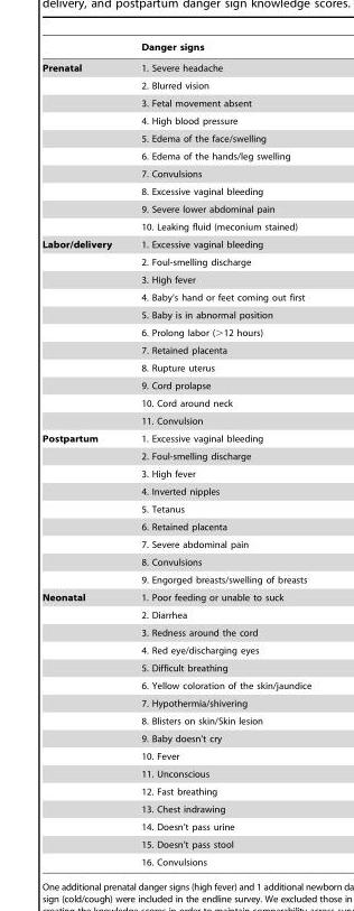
<table><thead><tr><td></td><td>Danger signs</td></tr></thead><tbody><tr><td rowspan="10">Prenatal</td><td>1. Severe headache</td></tr><tr><td>2. Blurred vision</td></tr><tr><td>3. Fetal movement absent</td></tr><tr><td>4. High blood pressure</td></tr><tr><td>5. Edema of the face/swelling</td></tr><tr><td>6. Edema of the hands/leg swelling</td></tr><tr><td>7. Convulsions</td></tr><tr><td>8. Excessive vaginal bleeding</td></tr><tr><td>9. Severe lower abdominal pain</td></tr><tr><td>10. Leaking fluid (meconium stained)</td></tr><tr><td rowspan="11">Labor/delivery</td><td>1. Excessive vaginal bleeding</td></tr><tr><td>2. Foul-smelling discharge</td></tr><tr><td>3. High fever</td></tr><tr><td>4. Baby’s hand or feet coming out first</td></tr><tr><td>5. Baby is in abnormal position</td></tr><tr><td>6. Prolong labor (&gt;12 hours)</td></tr><tr><td>7. Retained placenta</td></tr><tr><td>8. Rupture uterus</td></tr><tr><td>9. Cord prolapse</td></tr><tr><td>10. Cord around neck</td></tr><tr><td>11. Convulsion</td></tr><tr><td rowspan="9">Postpartum</td><td>1. Excessive vaginal bleeding</td></tr><tr><td>2. Foul-smelling discharge</td></tr><tr><td>3. High fever</td></tr><tr><td>4. Inverted nipples</td></tr><tr><td>5. Tetanus</td></tr><tr><td>6. Retained placenta</td></tr><tr><td>7. Severe abdominal pain</td></tr><tr><td>8. Convulsions</td></tr><tr><td>9. Engorged breasts/swelling of breasts</td></tr><tr><td rowspan="16">Neonatal</td><td>1. Poor feeding or unable to suck</td></tr><tr><td>2. Diarrhea</td></tr><tr><td>3. Redness around the cord</td></tr><tr><td>4. Red eye/discharging eyes</td></tr><tr><td>5. Difficult breathing</td></tr><tr><td>6. Yellow coloration of the skin/jaundice</td></tr><tr><td>7. Hypothermia/shivering</td></tr><tr><td>8. Blisters on skin/Skin lesion</td></tr><tr><td>9. Baby doesn’t cry</td></tr><tr><td>10. Fever</td></tr><tr><td>11. Unconscious</td></tr><tr><td>12. Fast breathing</td></tr><tr><td>13. Chest indrawing</td></tr><tr><td>14. Doesn’t pass urine</td></tr><tr><td>15. Doesn’t pass stool</td></tr><tr><td>16. Convulsions</td></tr></tbody></table>